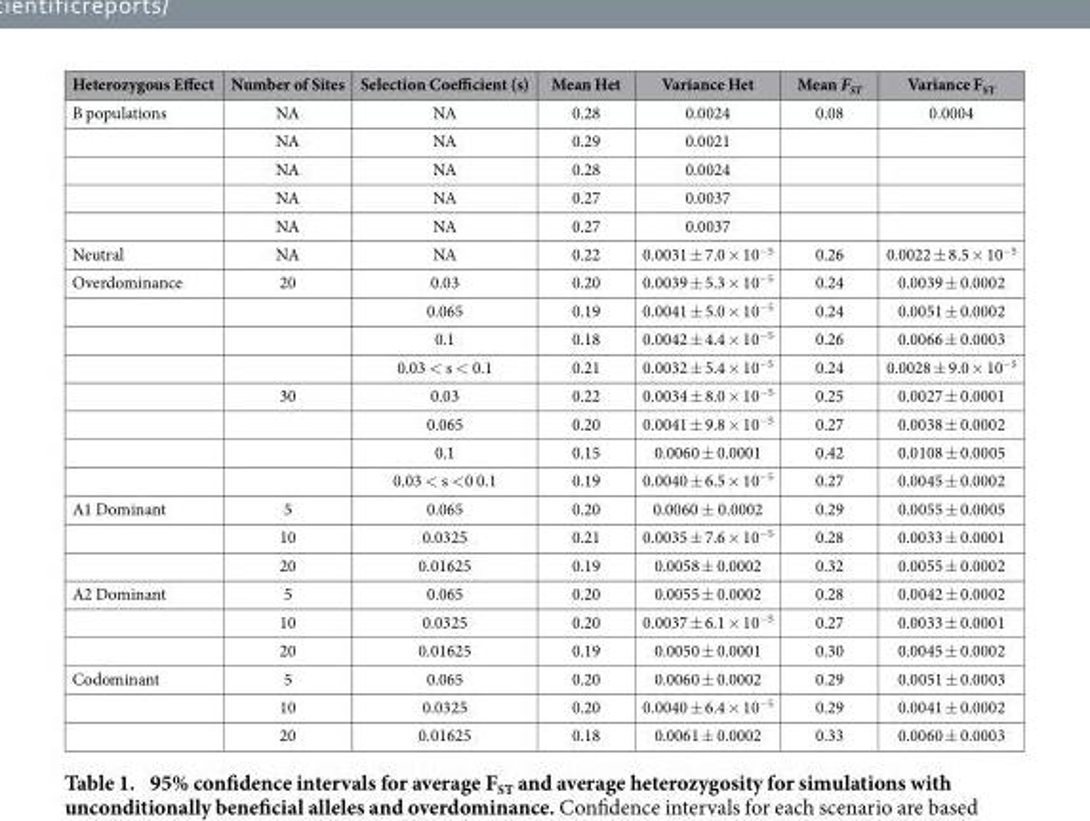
<table><thead><tr><td>Heterozygous Effect</td><td>Number of Sites</td><td>Selection Coefficient (s)</td><td>Mean Het</td><td>Variance Het</td><td>Mean F<sub>ST</sub></td><td>Variance F<sub>ST</sub></td></tr></thead><tbody><tr><td rowspan="5">B populations</td><td>NA</td><td>NA</td><td>0.28</td><td>0.0024</td><td>0.08</td><td>0.0004</td></tr><tr><td>NA</td><td>NA</td><td>0.29</td><td>0.0021</td><td></td><td></td></tr><tr><td>NA</td><td>NA</td><td>0.28</td><td>0.0024</td><td></td><td></td></tr><tr><td>NA</td><td>NA</td><td>0.27</td><td>0.0037</td><td></td><td></td></tr><tr><td>NA</td><td>NA</td><td>0.27</td><td>0.0037</td><td></td><td></td></tr><tr><td>Neutral</td><td>NA</td><td>NA</td><td>0.22</td><td>0.0031 ± 7.0 × 10<sup>−5</sup></td><td>0.26</td><td>0.0022 ± 8.5 × 10<sup>−5</sup></td></tr><tr><td rowspan="8">Overdominance</td><td>20</td><td>0.03</td><td>0.20</td><td>0.0039 ± 5.3 × 10<sup>−5</sup></td><td>0.24</td><td>0.0039 ± 0.0002</td></tr><tr><td></td><td>0.065</td><td>0.19</td><td>0.0041 ± 5.0 × 10<sup>−5</sup></td><td>0.24</td><td>0.0051 ± 0.0002</td></tr><tr><td></td><td>0.1</td><td>0.18</td><td>0.0042 ± 4.4 × 10<sup>−5</sup></td><td>0.26</td><td>0.0066 ± 0.0003</td></tr><tr><td></td><td>0.03 &lt; s &lt; 0.1</td><td>0.21</td><td>0.0032 ± 5.4 × 10<sup>−5</sup></td><td>0.24</td><td>0.0028 ± 9.0 × 10<sup>−5</sup></td></tr><tr><td>30</td><td>0.03</td><td>0.22</td><td>0.0034 ± 8.0 × 10<sup>−5</sup></td><td>0.25</td><td>0.0027 ± 0.0001</td></tr><tr><td></td><td>0.065</td><td>0.20</td><td>0.0041 ± 9.8 × 10<sup>−5</sup></td><td>0.27</td><td>0.0038 ± 0.0002</td></tr><tr><td></td><td>0.1</td><td>0.15</td><td>0.0060 ± 0.0001</td><td>0.42</td><td>0.0108 ± 0.0005</td></tr><tr><td></td><td>0.03 &lt; s &lt; 0 0.1</td><td>0.19</td><td>0.0040 ± 6.5 × 10<sup>−5</sup></td><td>0.27</td><td>0.0045 ± 0.0002</td></tr><tr><td rowspan="3">A1 Dominant</td><td>5</td><td>0.065</td><td>0.20</td><td>0.0060 ± 0.0002</td><td>0.29</td><td>0.0055 ± 0.0005</td></tr><tr><td>10</td><td>0.0325</td><td>0.21</td><td>0.0035 ± 7.6 × 10<sup>−5</sup></td><td>0.28</td><td>0.0033 ± 0.0001</td></tr><tr><td>20</td><td>0.01625</td><td>0.19</td><td>0.0058 ± 0.0002</td><td>0.32</td><td>0.0055 ± 0.0002</td></tr><tr><td rowspan="3">A2 Dominant</td><td>5</td><td>0.065</td><td>0.20</td><td>0.0055 ± 0.0002</td><td>0.28</td><td>0.0042 ± 0.0002</td></tr><tr><td>10</td><td>0.0325</td><td>0.20</td><td>0.0037 ± 6.1 × 10<sup>−5</sup></td><td>0.27</td><td>0.0033 ± 0.0001</td></tr><tr><td>20</td><td>0.01625</td><td>0.19</td><td>0.0050 ± 0.0001</td><td>0.30</td><td>0.0045 ± 0.0002</td></tr><tr><td rowspan="3">Codominant</td><td>5</td><td>0.065</td><td>0.20</td><td>0.0060 ± 0.0002</td><td>0.29</td><td>0.0051 ± 0.0003</td></tr><tr><td>10</td><td>0.0325</td><td>0.20</td><td>0.0040 ± 6.4 × 10<sup>−5</sup></td><td>0.29</td><td>0.0041 ± 0.0002</td></tr><tr><td>20</td><td>0.01625</td><td>0.18</td><td>0.0061 ± 0.0002</td><td>0.33</td><td>0.0060 ± 0.0003</td></tr></tbody></table>